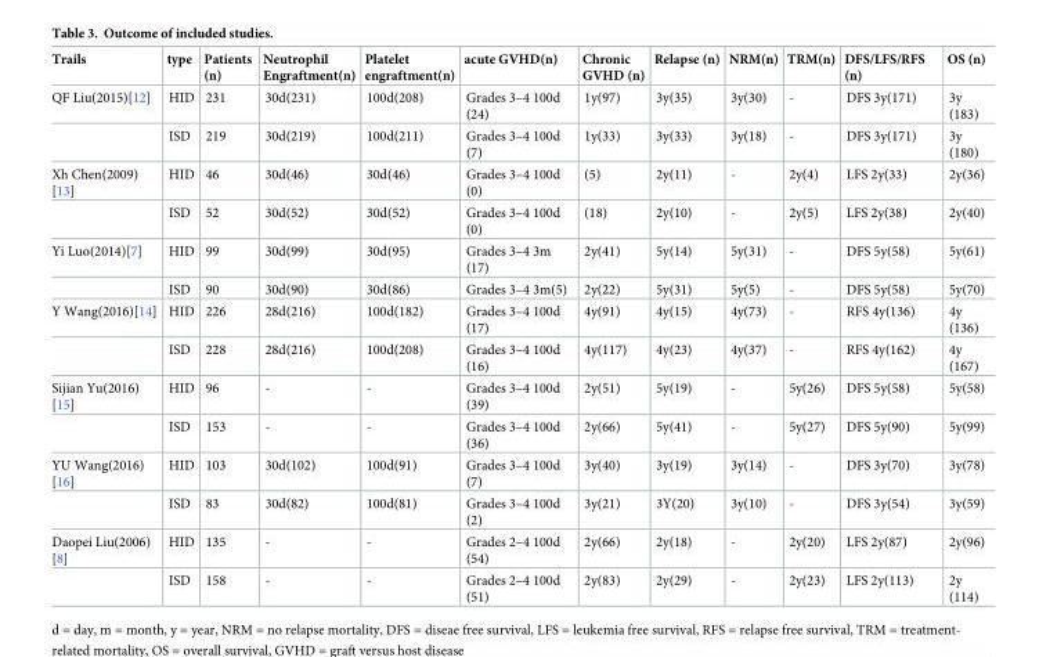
<table><thead><tr><td>Trails</td><td>type</td><td>Patients (n)</td><td>Neutrophil Engraftment(n)</td><td>Platelet engraftment(n)</td><td>acute GVHD(n)</td><td>Chronic GVHD (n)</td><td>Relapse (n)</td><td>NRM(n)</td><td>TRM(n)</td><td>DFS/LFS/RFS (n)</td><td>OS (n)</td></tr></thead><tbody><tr><td rowspan="2">QF Liu(2015)[12]</td><td>HID</td><td>231</td><td>30d(231)</td><td>100d(208)</td><td>Grades 3–4 100d (24)</td><td>1y(97)</td><td>3y(35)</td><td>3y(30)</td><td>-</td><td>DFS 3y(171)</td><td>3y (183)</td></tr><tr><td>ISD</td><td>219</td><td>30d(219)</td><td>100d(211)</td><td>Grades 3–4 100d (7)</td><td>1y(33)</td><td>3y(33)</td><td>3y(18)</td><td>-</td><td>DFS 3y(171)</td><td>3y (180)</td></tr><tr><td rowspan="2">Xh Chen(2009) [13]</td><td>HID</td><td>46</td><td>30d(46)</td><td>30d(46)</td><td>Grades 3–4 100d (0)</td><td>(5)</td><td>2y(11)</td><td>-</td><td>2y(4)</td><td>LFS 2y(33)</td><td>2y(36)</td></tr><tr><td>ISD</td><td>52</td><td>30d(52)</td><td>30d(52)</td><td>Grades 3–4 100d (0)</td><td>(18)</td><td>2y(10)</td><td>-</td><td>2y(5)</td><td>LFS 2y(38)</td><td>2y(40)</td></tr><tr><td rowspan="2">Yi Luo(2014)[7]</td><td>HID</td><td>99</td><td>30d(99)</td><td>30d(95)</td><td>Grades 3–4 3m (17)</td><td>2y(41)</td><td>5y(14)</td><td>5y(31)</td><td>-</td><td>DFS 5y(58)</td><td>5y(61)</td></tr><tr><td>ISD</td><td>90</td><td>30d(90)</td><td>30d(86)</td><td>Grades 3–4 3m(5)</td><td>2y(22)</td><td>5y(31)</td><td>5y(5)</td><td>-</td><td>DFS 5y(58)</td><td>5y(70)</td></tr><tr><td rowspan="2">Y Wang(2016)[14]</td><td>HID</td><td>226</td><td>28d(216)</td><td>100d(182)</td><td>Grades 3–4 100d (17)</td><td>4y(91)</td><td>4y(15)</td><td>4y(73)</td><td>-</td><td>RFS 4y(136)</td><td>4y (136)</td></tr><tr><td>ISD</td><td>228</td><td>28d(216)</td><td>100d(208)</td><td>Grades 3–4 100d (16)</td><td>4y(117)</td><td>4y(23)</td><td>4y(37)</td><td>-</td><td>RFS 4y(162)</td><td>4y (167)</td></tr><tr><td rowspan="2">Sijian Yu(2016) [15]</td><td>HID</td><td>96</td><td>-</td><td>-</td><td>Grades 3–4 100d (39)</td><td>2y(51)</td><td>5y(19)</td><td>-</td><td>5y(26)</td><td>DFS 5y(58)</td><td>5y(58)</td></tr><tr><td>ISD</td><td>153</td><td>-</td><td>-</td><td>Grades 3–4 100d (36)</td><td>2y(66)</td><td>5y(41)</td><td>-</td><td>5y(27)</td><td>DFS 5y(90)</td><td>5y(99)</td></tr><tr><td rowspan="2">YU Wang(2016) [16]</td><td>HID</td><td>103</td><td>30d(102)</td><td>100d(91)</td><td>Grades 3–4 100d (7)</td><td>3y(40)</td><td>3y(19)</td><td>3y(14)</td><td>-</td><td>DFS 3y(70)</td><td>3y(78)</td></tr><tr><td>ISD</td><td>83</td><td>30d(82)</td><td>100d(81)</td><td>Grades 3–4 100d (2)</td><td>3y(21)</td><td>3Y(20)</td><td>3y(10)</td><td>-</td><td>DFS 3y(54)</td><td>3y(59)</td></tr><tr><td rowspan="2">Daopei Liu(2006) [8]</td><td>HID</td><td>135</td><td>-</td><td>-</td><td>Grades 2–4 100d (54)</td><td>2y(66)</td><td>2y(18)</td><td>-</td><td>2y(20)</td><td>LFS 2y(87)</td><td>2y(96)</td></tr><tr><td>ISD</td><td>158</td><td>-</td><td>-</td><td>Grades 2–4 100d (51)</td><td>2y(83)</td><td>2y(29)</td><td>-</td><td>2y(23)</td><td>LFS 2y(113)</td><td>2y (114)</td></tr></tbody></table>